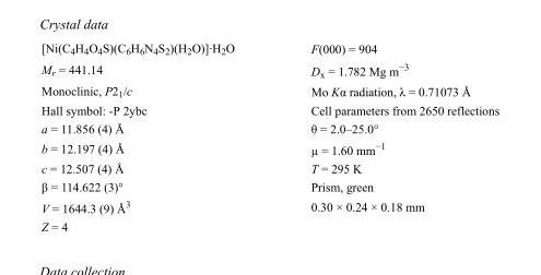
<table><tbody><tr><td>[Ni(C<sub>4</sub>H<sub>4</sub>O<sub>4</sub>S)(C<sub>6</sub>H<sub>6</sub>N<sub>4</sub>S<sub>2</sub>)(H<sub>2</sub>O)]·H<sub>2</sub>O</td><td>F(000) = 904</td></tr><tr><td>M<sub>r</sub> = 441.14</td><td>D<sub>x</sub> = 1.782 Mg m<sup>−3</sup></td></tr><tr><td>Monoclinic, P2<sub>1</sub>/c</td><td>Mo Kα radiation, λ = 0.71073 Å</td></tr><tr><td>Hall symbol: -P 2ybc</td><td>Cell parameters from 2650 reflections</td></tr><tr><td>a = 11.856 (4) Å</td><td>θ = 2.0–25.0°</td></tr><tr><td>b = 12.197 (4) Å</td><td>µ = 1.60 mm<sup>−1</sup></td></tr><tr><td>c = 12.507 (4) Å</td><td>T = 295 K</td></tr><tr><td>β = 114.622 (3)°</td><td>Prism, green</td></tr><tr><td>V = 1644.3 (9) Å<sup>3</sup></td><td>0.30 × 0.24 × 0.18 mm</td></tr><tr><td>Z = 4</td><td></td></tr></tbody></table>